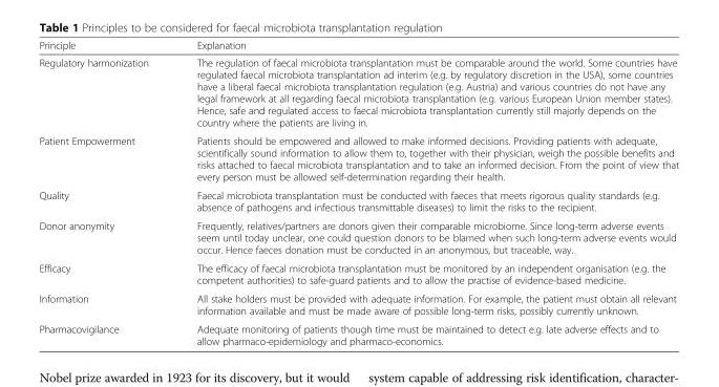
<table><thead><tr><td>Principle</td><td>Explanation</td></tr></thead><tbody><tr><td>Regulatory harmonization</td><td>The regulation of faecal microbiota transplantation must be comparable around the world. Some countries have regulated faecal microbiota transplantation ad interim (e.g. by regulatory discretion in the USA), some countries have a liberal faecal microbiota transplantation regulation (e.g. Austria) and various countries do not have any legal framework at all regarding faecal microbiota transplantation (e.g. various European Union member states). Hence, safe and regulated access to faecal microbiota transplantation currently still majorly depends on the country where the patients are living in.</td></tr><tr><td>Patient Empowerment</td><td>Patients should be empowered and allowed to make informed decisions. Providing patients with adequate, scientifically sound information to allow them to, together with their physician, weigh the possible benefits and risks attached to faecal microbiota transplantation and to take an informed decision. From the point of view that every person must be allowed self-determination regarding their health.</td></tr><tr><td>Quality</td><td>Faecal microbiota transplantation must be conducted with faeces that meets rigorous quality standards (e.g. absence of pathogens and infectious transmittable diseases) to limit the risks to the recipient.</td></tr><tr><td>Donor anonymity</td><td>Frequently, relatives/partners are donors given their comparable microbiome. Since long-term adverse events seem until today unclear, one could question donors to be blamed when such long-term adverse events would occur. Hence faeces donation must be conducted in an anonymous, but traceable, way.</td></tr><tr><td>Efficacy</td><td>The efficacy of faecal microbiota transplantation must be monitored by an independent organisation (e.g. the competent authorities) to safe-guard patients and to allow the practise of evidence-based medicine.</td></tr><tr><td>Information</td><td>All stake holders must be provided with adequate information. For example, the patient must obtain all relevant information available and must be made aware of possible long-term risks, possibly currently unknown.</td></tr><tr><td>Pharmacovigilance</td><td>Adequate monitoring of patients though time must be maintained to detect e.g. late adverse effects and to allow pharmaco-epidemiology and pharmaco-economics.</td></tr></tbody></table>